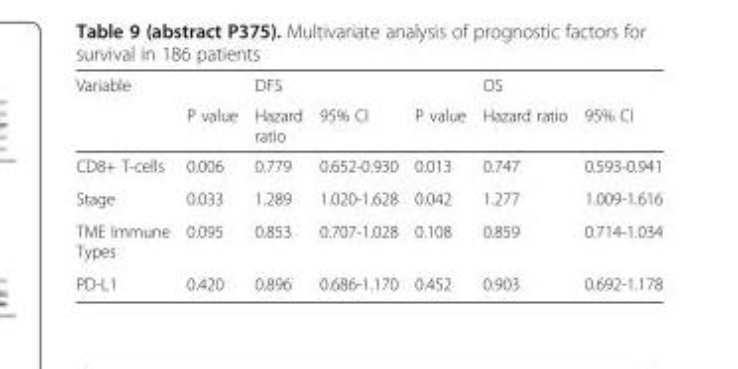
<table><thead><tr><td rowspan="2">Variable</td><td rowspan="2">P value</td><td rowspan="2">DFS Hazard ratio</td><td rowspan="2">95% CI</td><td rowspan="2">P value</td><td rowspan="2">OS Hazard ratio</td><td rowspan="2">95% CI</td></tr><tr></tr></thead><tbody><tr><td>CD8+ T-cells</td><td>0.006</td><td>0.779</td><td>0.652-0.930</td><td>0.013</td><td>0.747</td><td>0.593-0.941</td></tr><tr><td>Stage</td><td>0.033</td><td>1.289</td><td>1.020-1.628</td><td>0.042</td><td>1.277</td><td>1.009-1.616</td></tr><tr><td>TME Immune Types</td><td>0.095</td><td>0.853</td><td>0.707-1.028</td><td>0.108</td><td>0.859</td><td>0.714-1.034</td></tr><tr><td>PD-L1</td><td>0.420</td><td>0.896</td><td>0.686-1.170</td><td>0.452</td><td>0.903</td><td>0.692-1.178</td></tr></tbody></table>